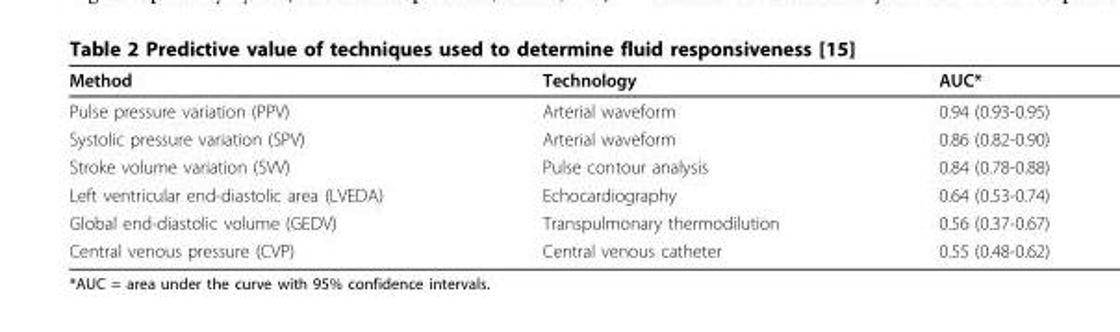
<table><thead><tr><td>Method</td><td>Technology</td><td>AUC*</td></tr></thead><tbody><tr><td>Pulse pressure variation (PPV)</td><td>Arterial waveform</td><td>0.94 (0.93-0.95)</td></tr><tr><td>Systolic pressure variation (SPV)</td><td>Arterial waveform</td><td>0.86 (0.82-0.90)</td></tr><tr><td>Stroke volume variation (SVV)</td><td>Pulse contour analysis</td><td>0.84 (0.78-0.88)</td></tr><tr><td>Left ventricular end-diastolic area (LVEDA)</td><td>Echocardiography</td><td>0.64 (0.53-0.74)</td></tr><tr><td>Global end-diastolic volume (GEDV)</td><td>Transpulmonary thermodilution</td><td>0.56 (0.37-0.67)</td></tr><tr><td>Central venous pressure (CVP)</td><td>Central venous catheter</td><td>0.55 (0.48-0.62)</td></tr></tbody></table>